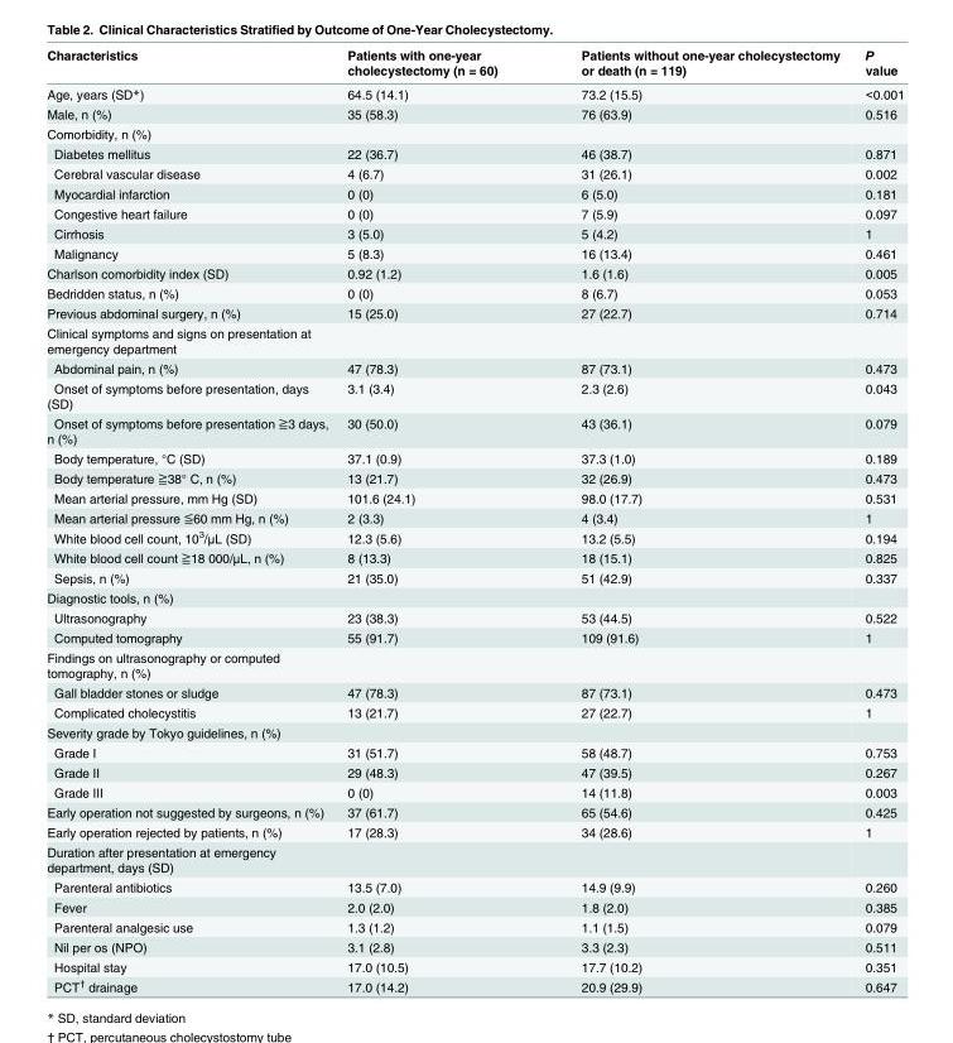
<table><thead><tr><td>Characteristics</td><td>Patients with one-year cholecystectomy (n = 60)</td><td>Patients without one-year cholecystectomy or death (n = 119)</td><td>P value</td></tr></thead><tbody><tr><td>Age, years (SD*)</td><td>64.5 (14.1)</td><td>73.2 (15.5)</td><td>&lt;0.001</td></tr><tr><td>Male, n (%)</td><td>35 (58.3)</td><td>76 (63.9)</td><td>0.516</td></tr><tr><td colspan="4">Comorbidity, n (%)</td></tr><tr><td>Diabetes mellitus</td><td>22 (36.7)</td><td>46 (38.7)</td><td>0.871</td></tr><tr><td>Cerebral vascular disease</td><td>4 (6.7)</td><td>31 (26.1)</td><td>0.002</td></tr><tr><td>Myocardial infarction</td><td>0 (0)</td><td>6 (5.0)</td><td>0.181</td></tr><tr><td>Congestive heart failure</td><td>0 (0)</td><td>7 (5.9)</td><td>0.097</td></tr><tr><td>Cirrhosis</td><td>3 (5.0)</td><td>5 (4.2)</td><td>1</td></tr><tr><td>Malignancy</td><td>5 (8.3)</td><td>16 (13.4)</td><td>0.461</td></tr><tr><td>Charlson comorbidity index (SD)</td><td>0.92 (1.2)</td><td>1.6 (1.6)</td><td>0.005</td></tr><tr><td>Bedridden status, n (%)</td><td>0 (0)</td><td>8 (6.7)</td><td>0.053</td></tr><tr><td>Previous abdominal surgery, n (%)</td><td>15 (25.0)</td><td>27 (22.7)</td><td>0.714</td></tr><tr><td colspan="4">Clinical symptoms and signs on presentation at emergency department</td></tr><tr><td>Abdominal pain, n (%)</td><td>47 (78.3)</td><td>87 (73.1)</td><td>0.473</td></tr><tr><td>Onset of symptoms before presentation, days (SD)</td><td>3.1 (3.4)</td><td>2.3 (2.6)</td><td>0.043</td></tr><tr><td>Onset of symptoms before presentation ≧3 days, n (%)</td><td>30 (50.0)</td><td>43 (36.1)</td><td>0.079</td></tr><tr><td>Body temperature, °C (SD)</td><td>37.1 (0.9)</td><td>37.3 (1.0)</td><td>0.189</td></tr><tr><td>Body temperature ≧38° C, n (%)</td><td>13 (21.7)</td><td>32 (26.9)</td><td>0.473</td></tr><tr><td>Mean arterial pressure, mm Hg (SD)</td><td>101.6 (24.1)</td><td>98.0 (17.7)</td><td>0.531</td></tr><tr><td>Mean arterial pressure ≦60 mm Hg, n (%)</td><td>2 (3.3)</td><td>4 (3.4)</td><td>1</td></tr><tr><td>White blood cell count, 10<sup>3</sup>/μL (SD)</td><td>12.3 (5.6)</td><td>13.2 (5.5)</td><td>0.194</td></tr><tr><td>White blood cell count ≧18 000/μL, n (%)</td><td>8 (13.3)</td><td>18 (15.1)</td><td>0.825</td></tr><tr><td>Sepsis, n (%)</td><td>21 (35.0)</td><td>51 (42.9)</td><td>0.337</td></tr><tr><td colspan="4">Diagnostic tools, n (%)</td></tr><tr><td>Ultrasonography</td><td>23 (38.3)</td><td>53 (44.5)</td><td>0.522</td></tr><tr><td>Computed tomography</td><td>55 (91.7)</td><td>109 (91.6)</td><td>1</td></tr><tr><td colspan="4">Findings on ultrasonography or computed tomography, n (%)</td></tr><tr><td>Gall bladder stones or sludge</td><td>47 (78.3)</td><td>87 (73.1)</td><td>0.473</td></tr><tr><td>Complicated cholecystitis</td><td>13 (21.7)</td><td>27 (22.7)</td><td>1</td></tr><tr><td colspan="4">Severity grade by Tokyo guidelines, n (%)</td></tr><tr><td>Grade I</td><td>31 (51.7)</td><td>58 (48.7)</td><td>0.753</td></tr><tr><td>Grade II</td><td>29 (48.3)</td><td>47 (39.5)</td><td>0.267</td></tr><tr><td>Grade III</td><td>0 (0)</td><td>14 (11.8)</td><td>0.003</td></tr><tr><td>Early operation not suggested by surgeons, n (%)</td><td>37 (61.7)</td><td>65 (54.6)</td><td>0.425</td></tr><tr><td>Early operation rejected by patients, n (%)</td><td>17 (28.3)</td><td>34 (28.6)</td><td>1</td></tr><tr><td colspan="4">Duration after presentation at emergency department, days (SD)</td></tr><tr><td>Parenteral antibiotics</td><td>13.5 (7.0)</td><td>14.9 (9.9)</td><td>0.260</td></tr><tr><td>Fever</td><td>2.0 (2.0)</td><td>1.8 (2.0)</td><td>0.385</td></tr><tr><td>Parenteral analgesic use</td><td>1.3 (1.2)</td><td>1.1 (1.5)</td><td>0.079</td></tr><tr><td>Nil per os (NPO)</td><td>3.1 (2.8)</td><td>3.3 (2.3)</td><td>0.511</td></tr><tr><td>Hospital stay</td><td>17.0 (10.5)</td><td>17.7 (10.2)</td><td>0.351</td></tr><tr><td>PCT<sup>†</sup> drainage</td><td>17.0 (14.2)</td><td>20.9 (29.9)</td><td>0.647</td></tr></tbody></table>